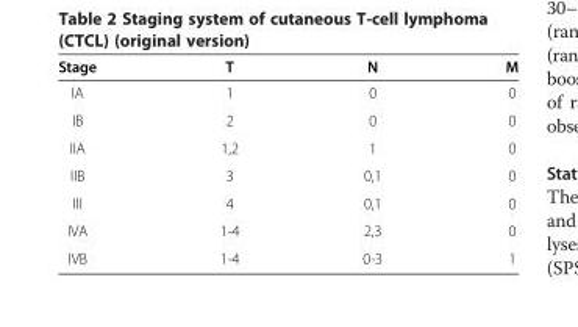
<table><thead><tr><td>Stage</td><td>T</td><td>N</td><td>M</td></tr></thead><tbody><tr><td>IA</td><td>1</td><td>0</td><td>0</td></tr><tr><td>IB</td><td>2</td><td>0</td><td>0</td></tr><tr><td>IIA</td><td>1,2</td><td>1</td><td>0</td></tr><tr><td>IIB</td><td>3</td><td>0,1</td><td>0</td></tr><tr><td>III</td><td>4</td><td>0,1</td><td>0</td></tr><tr><td>IVA</td><td>1-4</td><td>2,3</td><td>0</td></tr><tr><td>IVB</td><td>1-4</td><td>0-3</td><td>1</td></tr></tbody></table>